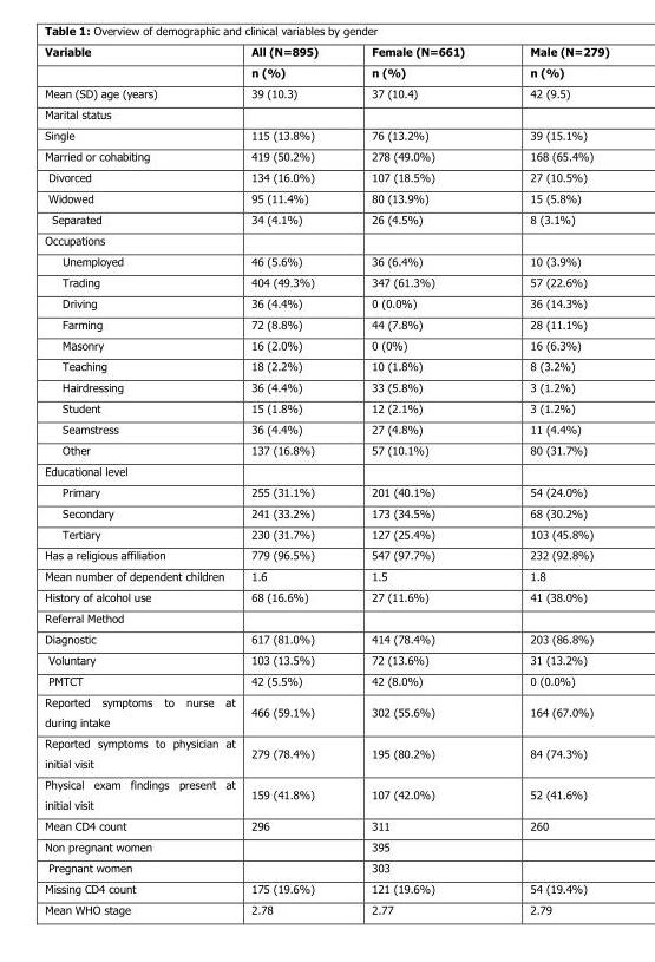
<table><thead><tr><td>Variable</td><td>All (N=895)</td><td>Female (N=661)</td><td>Male (N=279)</td></tr></thead><tbody><tr><td></td><td>n (%)</td><td>n (%)</td><td>n (%)</td></tr><tr><td>Mean (SD) age (years)</td><td>39 (10.3)</td><td>37 (10.4)</td><td>42 (9.5)</td></tr><tr><td colspan="4">Marital status</td></tr><tr><td>Single</td><td>115 (13.8%)</td><td>76 (13.2%)</td><td>39 (15.1%)</td></tr><tr><td>Married or cohabiting</td><td>419 (50.2%)</td><td>278 (49.0%)</td><td>168 (65.4%)</td></tr><tr><td>Divorced</td><td>134 (16.0%)</td><td>107 (18.5%)</td><td>27 (10.5%)</td></tr><tr><td>Widowed</td><td>95 (11.4%)</td><td>80 (13.9%)</td><td>15 (5.8%)</td></tr><tr><td>Separated</td><td>34 (4.1%)</td><td>26 (4.5%)</td><td>8 (3.1%)</td></tr><tr><td colspan="4">Occupations</td></tr><tr><td>Unemployed</td><td>46 (5.6%)</td><td>36 (6.4%)</td><td>10 (3.9%)</td></tr><tr><td>Trading</td><td>404 (49.3%)</td><td>347 (61.3%)</td><td>57 (22.6%)</td></tr><tr><td>Driving</td><td>36 (4.4%)</td><td>0 (0.0%)</td><td>36 (14.3%)</td></tr><tr><td>Farming</td><td>72 (8.8%)</td><td>44 (7.8%)</td><td>28 (11.1%)</td></tr><tr><td>Masonry</td><td>16 (2.0%)</td><td>0 (0%)</td><td>16 (6.3%)</td></tr><tr><td>Teaching</td><td>18 (2.2%)</td><td>10 (1.8%)</td><td>8 (3.2%)</td></tr><tr><td>Hairdressing</td><td>36 (4.4%)</td><td>33 (5.8%)</td><td>3 (1.2%)</td></tr><tr><td>Student</td><td>15 (1.8%)</td><td>12 (2.1%)</td><td>3 (1.2%)</td></tr><tr><td>Seamstress</td><td>36 (4.4%)</td><td>27 (4.8%)</td><td>11 (4.4%)</td></tr><tr><td>Other</td><td>137 (16.8%)</td><td>57 (10.1%)</td><td>80 (31.7%)</td></tr><tr><td colspan="4">Educational level</td></tr><tr><td>Primary</td><td>255 (31.1%)</td><td>201 (40.1%)</td><td>54 (24.0%)</td></tr><tr><td>Secondary</td><td>241 (33.2%)</td><td>173 (34.5%)</td><td>68 (30.2%)</td></tr><tr><td>Tertiary</td><td>230 (31.7%)</td><td>127 (25.4%)</td><td>103 (45.8%)</td></tr><tr><td>Has a religious affiliation</td><td>779 (96.5%)</td><td>547 (97.7%)</td><td>232 (92.8%)</td></tr><tr><td>Mean number of dependent children</td><td>1.6</td><td>1.5</td><td>1.8</td></tr><tr><td>History of alcohol use</td><td>68 (16.6%)</td><td>27 (11.6%)</td><td>41 (38.0%)</td></tr><tr><td colspan="4">Referral Method</td></tr><tr><td>Diagnostic</td><td>617 (81.0%)</td><td>414 (78.4%)</td><td>203 (86.8%)</td></tr><tr><td>Voluntary</td><td>103 (13.5%)</td><td>72 (13.6%)</td><td>31 (13.2%)</td></tr><tr><td>PMTCT</td><td>42 (5.5%)</td><td>42 (8.0%)</td><td>0 (0.0%)</td></tr><tr><td>Reported symptoms to nurse at during intake</td><td>466 (59.1%)</td><td>302 (55.6%)</td><td>164 (67.0%)</td></tr><tr><td>Reported symptoms to physician at initial visit</td><td>279 (78.4%)</td><td>195 (80.2%)</td><td>84 (74.3%)</td></tr><tr><td>Physical exam findings present at initial visit</td><td>159 (41.8%)</td><td>107 (42.0%)</td><td>52 (41.6%)</td></tr><tr><td>Mean CD4 count</td><td>296</td><td>311</td><td>260</td></tr><tr><td>Non pregnant women</td><td></td><td>395</td><td></td></tr><tr><td>Pregnant women</td><td></td><td>303</td><td></td></tr><tr><td>Missing CD4 count</td><td>175 (19.6%)</td><td>121 (19.6%)</td><td>54 (19.4%)</td></tr><tr><td>Mean WHO stage</td><td>2.78</td><td>2.77</td><td>2.79</td></tr></tbody></table>